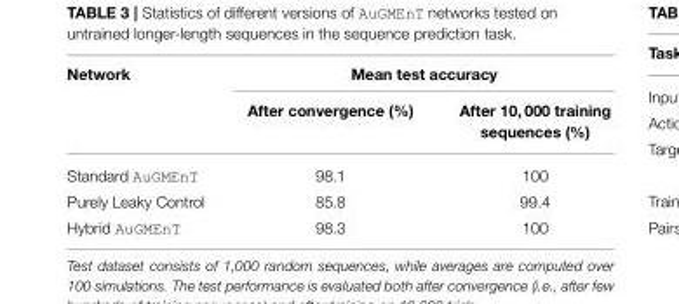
<table><thead><tr><td rowspan="2">Network</td><td colspan="2">Mean test accuracy</td></tr><tr><td>After convergence (%)</td><td>After 10, 000 training sequences (%)</td></tr></thead><tbody><tr><td>Standard AuGMEnT</td><td>98.1</td><td>100</td></tr><tr><td>Purely Leaky Control</td><td>85.8</td><td>99.4</td></tr><tr><td>Hybrid AuGMEnT</td><td>98.3</td><td>100</td></tr></tbody></table>